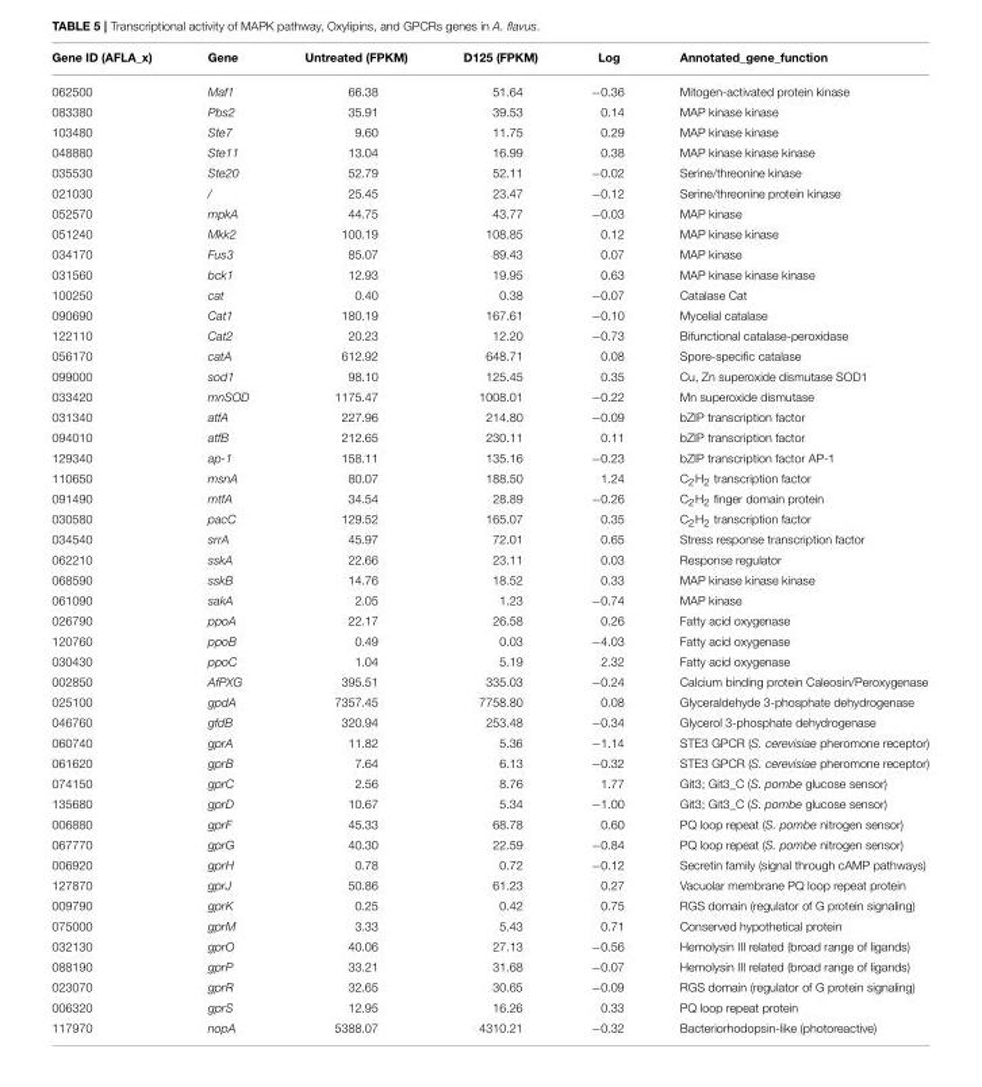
<table><thead><tr><td>Gene ID (AFLA_x)</td><td>Gene</td><td>Untreated (FPKM)</td><td>D125 (FPKM)</td><td>Log</td><td>Annotated_gene_function</td></tr></thead><tbody><tr><td>062500</td><td>Maf1</td><td>66.38</td><td>51.64</td><td>−0.36</td><td>Mitogen-activated protein kinase</td></tr><tr><td>083380</td><td>Pbs2</td><td>35.91</td><td>39.53</td><td>0.14</td><td>MAP kinase kinase</td></tr><tr><td>103480</td><td>Ste7</td><td>9.60</td><td>11.75</td><td>0.29</td><td>MAP kinase kinase</td></tr><tr><td>048880</td><td>Ste11</td><td>13.04</td><td>16.99</td><td>0.38</td><td>MAP kinase kinase kinase</td></tr><tr><td>035530</td><td>Ste20</td><td>52.79</td><td>52.11</td><td>−0.02</td><td>Serine/threonine kinase</td></tr><tr><td>021030</td><td>/</td><td>25.45</td><td>23.47</td><td>−0.12</td><td>Serine/threonine protein kinase</td></tr><tr><td>052570</td><td>mpkA</td><td>44.75</td><td>43.77</td><td>−0.03</td><td>MAP kinase</td></tr><tr><td>051240</td><td>Mkk2</td><td>100.19</td><td>108.85</td><td>0.12</td><td>MAP kinase kinase</td></tr><tr><td>034170</td><td>Fus3</td><td>85.07</td><td>89.43</td><td>0.07</td><td>MAP kinase</td></tr><tr><td>031560</td><td>bck1</td><td>12.93</td><td>19.95</td><td>0.63</td><td>MAP kinase kinase kinase</td></tr><tr><td>100250</td><td>cat</td><td>0.40</td><td>0.38</td><td>−0.07</td><td>Catalase Cat</td></tr><tr><td>090690</td><td>Cat1</td><td>180.19</td><td>167.61</td><td>−0.10</td><td>Mycelial catalase</td></tr><tr><td>122110</td><td>Cat2</td><td>20.23</td><td>12.20</td><td>−0.73</td><td>Bifunctional catalase-peroxidase</td></tr><tr><td>056170</td><td>catA</td><td>612.92</td><td>648.71</td><td>0.08</td><td>Spore-specific catalase</td></tr><tr><td>099000</td><td>sod1</td><td>98.10</td><td>125.45</td><td>0.35</td><td>Cu, Zn superoxide dismutase SOD1</td></tr><tr><td>033420</td><td>mnSOD</td><td>1175.47</td><td>1008.01</td><td>−0.22</td><td>Mn superoxide dismutase</td></tr><tr><td>031340</td><td>atfA</td><td>227.96</td><td>214.80</td><td>−0.09</td><td>bZIP transcription factor</td></tr><tr><td>094010</td><td>atfB</td><td>212.65</td><td>230.11</td><td>0.11</td><td>bZIP transcription factor</td></tr><tr><td>129340</td><td>ap-1</td><td>158.11</td><td>135.16</td><td>−0.23</td><td>bZIP transcription factor AP-1</td></tr><tr><td>110650</td><td>msnA</td><td>80.07</td><td>188.50</td><td>1.24</td><td>C<sub>2</sub>H<sub>2</sub> transcription factor</td></tr><tr><td>091490</td><td>mtfA</td><td>34.54</td><td>28.89</td><td>−0.26</td><td>C<sub>2</sub>H<sub>2</sub> finger domain protein</td></tr><tr><td>030580</td><td>pacC</td><td>129.52</td><td>165.07</td><td>0.35</td><td>C<sub>2</sub>H<sub>2</sub> transcription factor</td></tr><tr><td>034540</td><td>srrA</td><td>45.97</td><td>72.01</td><td>0.65</td><td>Stress response transcription factor</td></tr><tr><td>062210</td><td>sskA</td><td>22.66</td><td>23.11</td><td>0.03</td><td>Response regulator</td></tr><tr><td>068590</td><td>sskB</td><td>14.76</td><td>18.52</td><td>0.33</td><td>MAP kinase kinase kinase</td></tr><tr><td>061090</td><td>sakA</td><td>2.05</td><td>1.23</td><td>−0.74</td><td>MAP kinase</td></tr><tr><td>026790</td><td>ppoA</td><td>22.17</td><td>26.58</td><td>0.26</td><td>Fatty acid oxygenase</td></tr><tr><td>120760</td><td>ppoB</td><td>0.49</td><td>0.03</td><td>−4.03</td><td>Fatty acid oxygenase</td></tr><tr><td>030430</td><td>ppoC</td><td>1.04</td><td>5.19</td><td>2.32</td><td>Fatty acid oxygenase</td></tr><tr><td>002850</td><td>AfPXG</td><td>395.51</td><td>335.03</td><td>−0.24</td><td>Calcium binding protein Caleosin/Peroxygenase</td></tr><tr><td>025100</td><td>gpdA</td><td>7357.45</td><td>7758.80</td><td>0.08</td><td>Glyceraldehyde 3-phosphate dehydrogenase</td></tr><tr><td>046760</td><td>gfdB</td><td>320.94</td><td>253.48</td><td>−0.34</td><td>Glycerol 3-phosphate dehydrogenase</td></tr><tr><td>060740</td><td>gprA</td><td>11.82</td><td>5.36</td><td>−1.14</td><td>STE3 GPCR (S. cerevisiae pheromone receptor)</td></tr><tr><td>061620</td><td>gprB</td><td>7.64</td><td>6.13</td><td>−0.32</td><td>STE3 GPCR (S. cerevisiae pheromone receptor)</td></tr><tr><td>074150</td><td>gprC</td><td>2.56</td><td>8.76</td><td>1.77</td><td>Git3; Git3_C (S. pombe glucose sensor)</td></tr><tr><td>135680</td><td>gprD</td><td>10.67</td><td>5.34</td><td>−1.00</td><td>Git3; Git3_C (S. pombe glucose sensor)</td></tr><tr><td>006880</td><td>gprF</td><td>45.33</td><td>68.78</td><td>0.60</td><td>PQ loop repeat (S. pombe nitrogen sensor)</td></tr><tr><td>067770</td><td>gprG</td><td>40.30</td><td>22.59</td><td>−0.84</td><td>PQ loop repeat (S. pombe nitrogen sensor)</td></tr><tr><td>006920</td><td>gprH</td><td>0.78</td><td>0.72</td><td>−0.12</td><td>Secretin family (signal through cAMP pathways)</td></tr><tr><td>127870</td><td>gprJ</td><td>50.86</td><td>61.23</td><td>0.27</td><td>Vacuolar membrane PQ loop repeat protein</td></tr><tr><td>009790</td><td>gprK</td><td>0.25</td><td>0.42</td><td>0.75</td><td>RGS domain (regulator of G protein signaling)</td></tr><tr><td>075000</td><td>gprM</td><td>3.33</td><td>5.43</td><td>0.71</td><td>Conserved hypothetical protein</td></tr><tr><td>032130</td><td>gprO</td><td>40.06</td><td>27.13</td><td>−0.56</td><td>Hemolysin III related (broad range of ligands)</td></tr><tr><td>088190</td><td>gprP</td><td>33.21</td><td>31.68</td><td>−0.07</td><td>Hemolysin III related (broad range of ligands)</td></tr><tr><td>023070</td><td>gprR</td><td>32.65</td><td>30.65</td><td>−0.09</td><td>RGS domain (regulator of G protein signaling)</td></tr><tr><td>006320</td><td>gprS</td><td>12.95</td><td>16.26</td><td>0.33</td><td>PQ loop repeat protein</td></tr><tr><td>117970</td><td>nopA</td><td>5388.07</td><td>4310.21</td><td>−0.32</td><td>Bacteriorhodopsin-like (photoreactive)</td></tr></tbody></table>